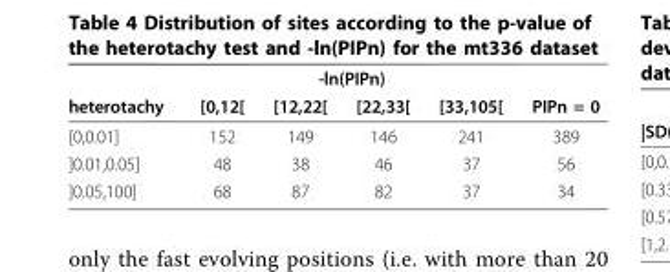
<table><thead><tr><td rowspan="2">heterotachy</td><td colspan="4">-ln(PIPn)</td><td rowspan="2">PIPn = 0</td></tr><tr><td>[0,12[</td><td>[12,22[</td><td>[22,33[</td><td>[33,105[</td></tr></thead><tbody><tr><td>[0,0.01]</td><td>152</td><td>149</td><td>146</td><td>241</td><td>389</td></tr><tr><td>]0.01,0.05]</td><td>48</td><td>38</td><td>46</td><td>37</td><td>56</td></tr><tr><td>]0.05,100]</td><td>68</td><td>87</td><td>82</td><td>37</td><td>34</td></tr></tbody></table>